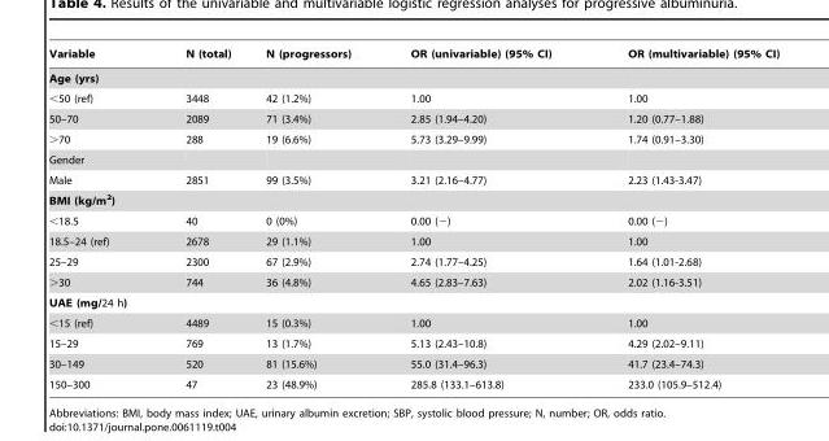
<table><thead><tr><td>Variable</td><td>N (total)</td><td>N (progressors)</td><td>OR (univariable) (95% CI)</td><td>OR (multivariable) (95% CI)</td></tr></thead><tbody><tr><td colspan="5">Age (yrs)</td></tr><tr><td>&lt;50 (ref)</td><td>3448</td><td>42 (1.2%)</td><td>1.00</td><td>1.00</td></tr><tr><td>50–70</td><td>2089</td><td>71 (3.4%)</td><td>2.85 (1.94–4.20)</td><td>1.20 (0.77–1.88)</td></tr><tr><td>&gt;70</td><td>288</td><td>19 (6.6%)</td><td>5.73 (3.29–9.99)</td><td>1.74 (0.91–3.30)</td></tr><tr><td colspan="5">Gender</td></tr><tr><td>Male</td><td>2851</td><td>99 (3.5%)</td><td>3.21 (2.16–4.77)</td><td>2.23 (1.43-3.47)</td></tr><tr><td colspan="5">BMI (kg/m<sup>2</sup>)</td></tr><tr><td>&lt;18.5</td><td>40</td><td>0 (0%)</td><td>0.00 (−)</td><td>0.00 (−)</td></tr><tr><td>18.5–24 (ref)</td><td>2678</td><td>29 (1.1%)</td><td>1.00</td><td>1.00</td></tr><tr><td>25–29</td><td>2300</td><td>67 (2.9%)</td><td>2.74 (1.77–4.25)</td><td>1.64 (1.01-2.68)</td></tr><tr><td>&gt;30</td><td>744</td><td>36 (4.8%)</td><td>4.65 (2.83–7.63)</td><td>2.02 (1.16-3.51)</td></tr><tr><td colspan="5">UAE (mg/24 h)</td></tr><tr><td>&lt;15 (ref)</td><td>4489</td><td>15 (0.3%)</td><td>1.00</td><td>1.00</td></tr><tr><td>15–29</td><td>769</td><td>13 (1.7%)</td><td>5.13 (2.43–10.8)</td><td>4.29 (2.02–9.11)</td></tr><tr><td>30–149</td><td>520</td><td>81 (15.6%)</td><td>55.0 (31.4–96.3)</td><td>41.7 (23.4–74.3)</td></tr><tr><td>150–300</td><td>47</td><td>23 (48.9%)</td><td>285.8 (133.1–613.8)</td><td>233.0 (105.9–512.4)</td></tr></tbody></table>